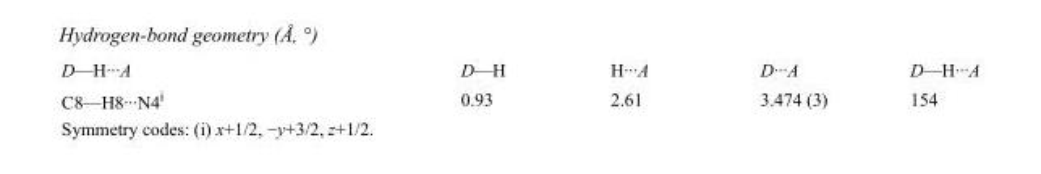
<table><tbody><tr><td>D—H···A</td><td>D—H</td><td>H···A</td><td>D···A</td><td>D—H···A</td></tr><tr><td>C8—H8···N4<sup>i</sup></td><td>0.93</td><td>2.61</td><td>3.474 (3)</td><td>154</td></tr></tbody></table>